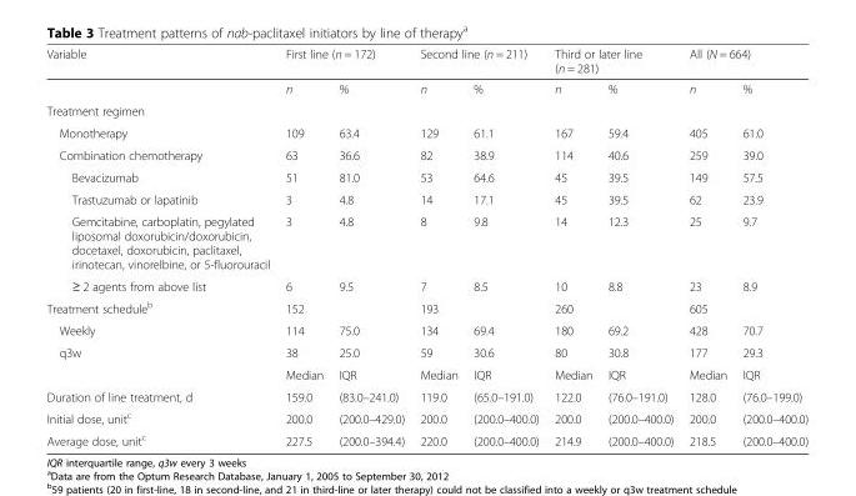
<table><thead><tr><td rowspan="2">Variable</td><td colspan="2">First line (n = 172)</td><td colspan="2">Second line (n = 211)</td><td colspan="2">Third or later line (n = 281)</td><td colspan="2">All (N = 664)</td></tr><tr><td>n</td><td>%</td><td>n</td><td>%</td><td>n</td><td>%</td><td>n</td><td>%</td></tr></thead><tbody><tr><td colspan="9">Treatment regimen</td></tr><tr><td>Monotherapy</td><td>109</td><td>63.4</td><td>129</td><td>61.1</td><td>167</td><td>59.4</td><td>405</td><td>61.0</td></tr><tr><td>Combination chemotherapy</td><td>63</td><td>36.6</td><td>82</td><td>38.9</td><td>114</td><td>40.6</td><td>259</td><td>39.0</td></tr><tr><td>Bevacizumab</td><td>51</td><td>81.0</td><td>53</td><td>64.6</td><td>45</td><td>39.5</td><td>149</td><td>57.5</td></tr><tr><td>Trastuzumab or lapatinib</td><td>3</td><td>4.8</td><td>14</td><td>17.1</td><td>45</td><td>39.5</td><td>62</td><td>23.9</td></tr><tr><td>Gemcitabine, carboplatin, pegylated liposomal doxorubicin/doxorubicin, docetaxel, doxorubicin, paclitaxel, irinotecan, vinorelbine, or 5-fluorouracil</td><td>3</td><td>4.8</td><td>8</td><td>9.8</td><td>14</td><td>12.3</td><td>25</td><td>9.7</td></tr><tr><td>≥ 2 agents from above list</td><td>6</td><td>9.5</td><td>7</td><td>8.5</td><td>10</td><td>8.8</td><td>23</td><td>8.9</td></tr><tr><td>Treatment schedule<sup>b</sup></td><td>152</td><td></td><td>193</td><td></td><td>260</td><td></td><td>605</td><td></td></tr><tr><td>Weekly</td><td>114</td><td>75.0</td><td>134</td><td>69.4</td><td>180</td><td>69.2</td><td>428</td><td>70.7</td></tr><tr><td rowspan="2">q3w</td><td>38</td><td>25.0</td><td>59</td><td>30.6</td><td>80</td><td>30.8</td><td>177</td><td>29.3</td></tr><tr><td>Median</td><td>IQR</td><td>Median</td><td>IQR</td><td>Median</td><td>IQR</td><td>Median</td><td>IQR</td></tr><tr><td>Duration of line treatment, d</td><td>159.0</td><td>(83.0–241.0)</td><td>119.0</td><td>(65.0–191.0)</td><td>122.0</td><td>(76.0–191.0)</td><td>128.0</td><td>(76.0–199.0)</td></tr><tr><td>Initial dose, unit<sup>c</sup></td><td>200.0</td><td>(200.0–429.0)</td><td>200.0</td><td>(200.0–400.0)</td><td>200.0</td><td>(200.0–400.0)</td><td>200.0</td><td>(200.0–400.0)</td></tr><tr><td>Average dose, unit<sup>c</sup></td><td>227.5</td><td>(200.0–394.4)</td><td>220.0</td><td>(200.0–400.0)</td><td>214.9</td><td>(200.0–400.0)</td><td>218.5</td><td>(200.0–400.0)</td></tr></tbody></table>